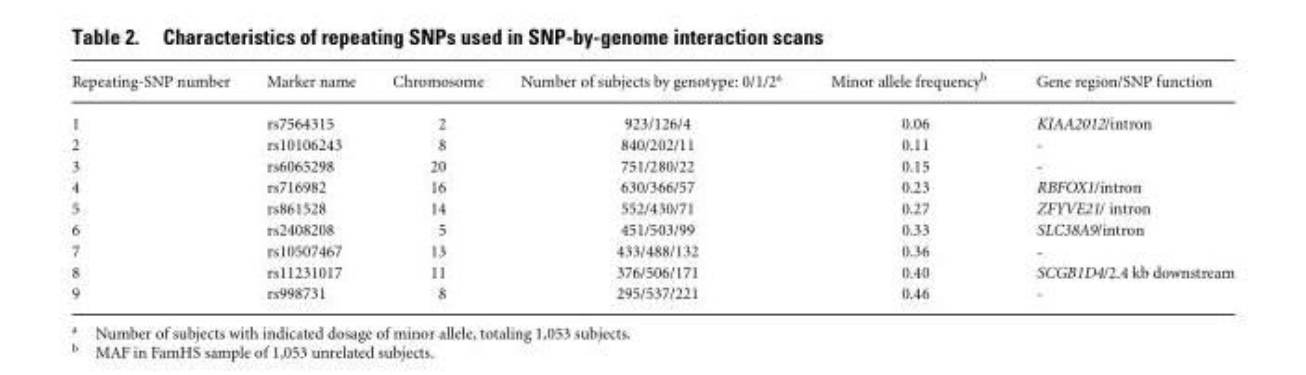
<table><thead><tr><td>Repeating-SNP number</td><td>Marker name</td><td>Chromosome</td><td>Number of subjects by genotype: 0/1/2<sup>a</sup></td><td>Minor allele frequency<sup>b</sup></td><td>Gene region/SNP function</td></tr></thead><tbody><tr><td>1</td><td>rs7564315</td><td>2</td><td>923/126/4</td><td>0.06</td><td>KIAA2012/intron</td></tr><tr><td>2</td><td>rs10106243</td><td>8</td><td>840/202/11</td><td>0.11</td><td>-</td></tr><tr><td>3</td><td>rs6065298</td><td>20</td><td>751/280/22</td><td>0.15</td><td>-</td></tr><tr><td>4</td><td>rs716982</td><td>16</td><td>630/366/57</td><td>0.23</td><td>RBFOX1/intron</td></tr><tr><td>5</td><td>rs861528</td><td>14</td><td>552/430/71</td><td>0.27</td><td>ZFYVE21/ intron</td></tr><tr><td>6</td><td>rs2408208</td><td>5</td><td>451/503/99</td><td>0.33</td><td>SLC38A9/intron</td></tr><tr><td>7</td><td>rs10507467</td><td>13</td><td>433/488/132</td><td>0.36</td><td>-</td></tr><tr><td>8</td><td>rs11231017</td><td>11</td><td>376/506/171</td><td>0.40</td><td>SCGB1D4/2.4 kb downstream</td></tr><tr><td>9</td><td>rs998731</td><td>8</td><td>295/537/221</td><td>0.46</td><td>-</td></tr></tbody></table>